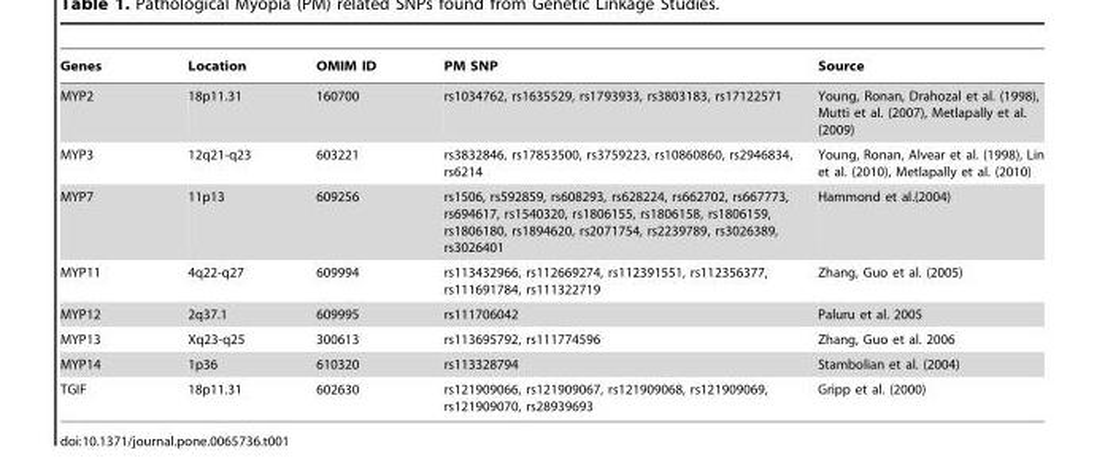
<table><thead><tr><td>Genes</td><td>Location</td><td>OMIM ID</td><td>PM SNP</td><td>Source</td></tr></thead><tbody><tr><td>MYP2</td><td>18p11.31</td><td>160700</td><td>rs1034762, rs1635529, rs1793933, rs3803183, rs17122571</td><td>Young, Ronan, Drahozal et al. (1998), Mutti et al. (2007), Metlapally et al. (2009)</td></tr><tr><td>MYP3</td><td>12q21-q23</td><td>603221</td><td>rs3832846, rs17853500, rs3759223, rs10860860, rs2946834, rs6214</td><td>Young, Ronan, Alvear et al. (1998), Lin et al. (2010), Metlapally et al. (2010)</td></tr><tr><td>MYP7</td><td>11p13</td><td>609256</td><td>rs1506, rs592859, rs608293, rs628224, rs662702, rs667773, rs694617, rs1540320, rs1806155, rs1806158, rs1806159, rs1806180, rs1894620, rs2071754, rs2239789, rs3026389, rs3026401</td><td>Hammond et al.(2004)</td></tr><tr><td>MYP11</td><td>4q22-q27</td><td>609994</td><td>rs113432966, rs112669274, rs112391551, rs112356377, rs111691784, rs111322719</td><td>Zhang, Guo et al. (2005)</td></tr><tr><td>MYP12</td><td>2q37.1</td><td>609995</td><td>rs111706042</td><td>Paluru et al. 2005</td></tr><tr><td>MYP13</td><td>Xq23-q25</td><td>300613</td><td>rs113695792, rs111774596</td><td>Zhang, Guo et al. 2006</td></tr><tr><td>MYP14</td><td>1p36</td><td>610320</td><td>rs113328794</td><td>Stambolian et al. (2004)</td></tr><tr><td>TGIF</td><td>18p11.31</td><td>602630</td><td>rs121909066, rs121909067, rs121909068, rs121909069, rs121909070, rs28939693</td><td>Gripp et al. (2000)</td></tr></tbody></table>